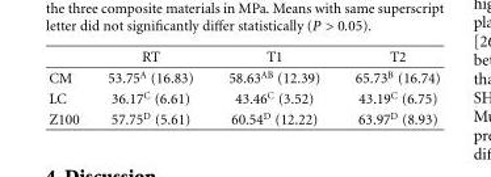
<table><thead><tr><td></td><td>RT</td><td>T1</td><td>T2</td></tr></thead><tbody><tr><td>CM</td><td>53.75<sup>A</sup> (16.83)</td><td>58.63<sup>AB</sup> (12.39)</td><td>65.73<sup>B</sup> (16.74)</td></tr><tr><td>LC</td><td>36.17<sup>C</sup> (6.61)</td><td>43.46<sup>C</sup> (3.52)</td><td>43.19<sup>C</sup> (6.75)</td></tr><tr><td>Z100</td><td>57.75<sup>D</sup> (5.61)</td><td>60.54<sup>D</sup> (12.22)</td><td>63.97<sup>D</sup> (8.93)</td></tr></tbody></table>